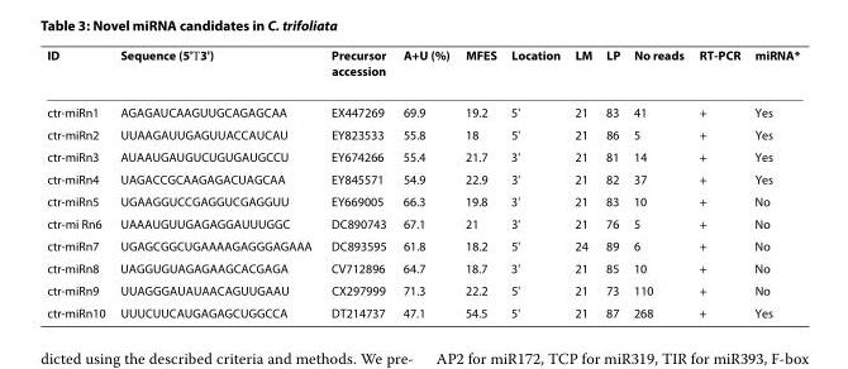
<table><thead><tr><td>ID</td><td>Sequence (5&#x27;→3&#x27;)</td><td>Precursor accession</td><td>A+U (%)</td><td>MFES</td><td>Location</td><td>LM</td><td>LP</td><td>No reads</td><td>RT-PCR</td><td>miRNA*</td></tr></thead><tbody><tr><td>ctr-miRn1</td><td>AGAGAUCAAGUUGCAGAGCAA</td><td>EX447269</td><td>69.9</td><td>19.2</td><td>5&#x27;</td><td>21</td><td>83</td><td>41</td><td>+</td><td>Yes</td></tr><tr><td>ctr-miRn2</td><td>UUAAGAUUGAGUUACCAUCAU</td><td>EY823533</td><td>55.8</td><td>18</td><td>5&#x27;</td><td>21</td><td>86</td><td>5</td><td>+</td><td>Yes</td></tr><tr><td>ctr-miRn3</td><td>AUAAUGAUGUCUGUGAUGCCU</td><td>EY674266</td><td>55.4</td><td>21.7</td><td>3&#x27;</td><td>21</td><td>81</td><td>14</td><td>+</td><td>Yes</td></tr><tr><td>ctr-miRn4</td><td>UAGACCGCAAGAGACUAGCAA</td><td>EY845571</td><td>54.9</td><td>22.9</td><td>3&#x27;</td><td>21</td><td>82</td><td>37</td><td>+</td><td>Yes</td></tr><tr><td>ctr-miRn5</td><td>UGAAGGUCCGAGGUCGAGGUU</td><td>EY669005</td><td>66.3</td><td>19.8</td><td>3&#x27;</td><td>21</td><td>83</td><td>10</td><td>+</td><td>No</td></tr><tr><td>ctr-mi Rn6</td><td>UAAAUGUUGAGAGGAUUUGGC</td><td>DC890743</td><td>67.1</td><td>21</td><td>3&#x27;</td><td>21</td><td>76</td><td>5</td><td>+</td><td>No</td></tr><tr><td>ctr-miRn7</td><td>UGAGCGGCUGAAAAGAGGGAGAAA</td><td>DC893595</td><td>61.8</td><td>18.2</td><td>5&#x27;</td><td>24</td><td>89</td><td>6</td><td>+</td><td>No</td></tr><tr><td>ctr-miRn8</td><td>UAGGUGUAGAGAAGCACGAGA</td><td>CV712896</td><td>64.7</td><td>18.7</td><td>3&#x27;</td><td>21</td><td>85</td><td>10</td><td>+</td><td>No</td></tr><tr><td>ctr-miRn9</td><td>UUAGGGAUAUAACAGUUGAAU</td><td>CX297999</td><td>71.3</td><td>22.2</td><td>5&#x27;</td><td>21</td><td>73</td><td>110</td><td>+</td><td>No</td></tr><tr><td>ctr-miRn10</td><td>UUUCUUCAUGAGAGCUGGCCA</td><td>DT214737</td><td>47.1</td><td>54.5</td><td>5&#x27;</td><td>21</td><td>87</td><td>268</td><td>+</td><td>Yes</td></tr></tbody></table>